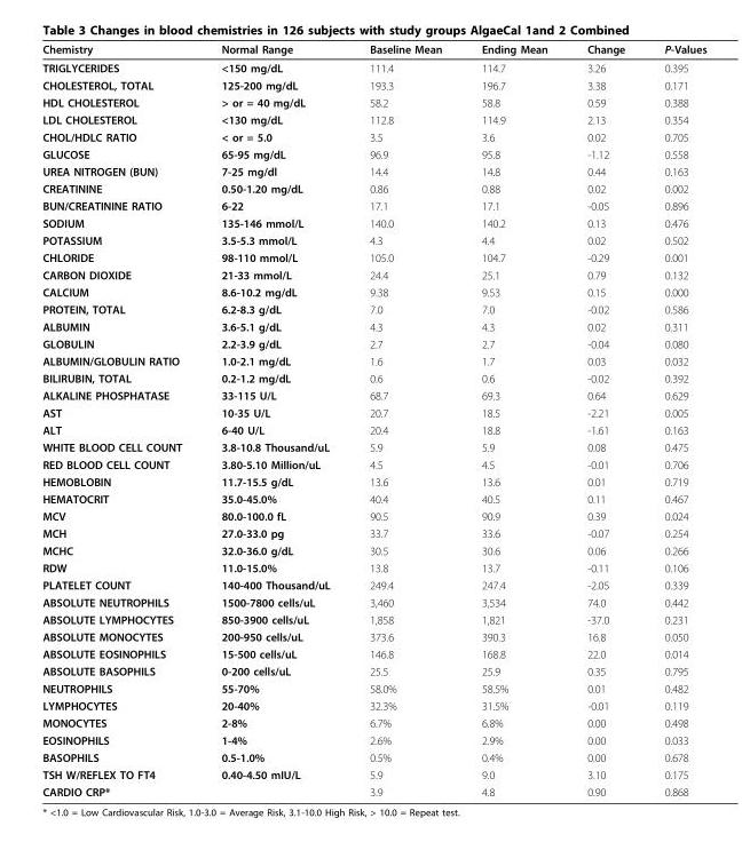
<table><thead><tr><td>Chemistry</td><td>Normal Range</td><td>Baseline Mean</td><td>Ending Mean</td><td>Change</td><td>P-Values</td></tr></thead><tbody><tr><td>TRIGLYCERIDES</td><td>&lt;150 mg/dL</td><td>111.4</td><td>114.7</td><td>3.26</td><td>0.395</td></tr><tr><td>CHOLESTEROL, TOTAL</td><td>125-200 mg/dL</td><td>193.3</td><td>196.7</td><td>3.38</td><td>0.171</td></tr><tr><td>HDL CHOLESTEROL</td><td>&gt; or = 40 mg/dL</td><td>58.2</td><td>58.8</td><td>0.59</td><td>0.388</td></tr><tr><td>LDL CHOLESTEROL</td><td>&lt;130 mg/dL</td><td>112.8</td><td>114.9</td><td>2.13</td><td>0.354</td></tr><tr><td>CHOL/HDLC RATIO</td><td>&lt; or = 5.0</td><td>3.5</td><td>3.6</td><td>0.02</td><td>0.705</td></tr><tr><td>GLUCOSE</td><td>65-95 mg/dL</td><td>96.9</td><td>95.8</td><td>-1.12</td><td>0.558</td></tr><tr><td>UREA NITROGEN (BUN)</td><td>7-25 mg/dl</td><td>14.4</td><td>14.8</td><td>0.44</td><td>0.163</td></tr><tr><td>CREATININE</td><td>0.50-1.20 mg/dL</td><td>0.86</td><td>0.88</td><td>0.02</td><td>0.002</td></tr><tr><td>BUN/CREATININE RATIO</td><td>6-22</td><td>17.1</td><td>17.1</td><td>-0.05</td><td>0.896</td></tr><tr><td>SODIUM</td><td>135-146 mmol/L</td><td>140.0</td><td>140.2</td><td>0.13</td><td>0.476</td></tr><tr><td>POTASSIUM</td><td>3.5-5.3 mmol/L</td><td>4.3</td><td>4.4</td><td>0.02</td><td>0.502</td></tr><tr><td>CHLORIDE</td><td>98-110 mmol/L</td><td>105.0</td><td>104.7</td><td>-0.29</td><td>0.001</td></tr><tr><td>CARBON DIOXIDE</td><td>21-33 mmol/L</td><td>24.4</td><td>25.1</td><td>0.79</td><td>0.132</td></tr><tr><td>CALCIUM</td><td>8.6-10.2 mg/dL</td><td>9.38</td><td>9.53</td><td>0.15</td><td>0.000</td></tr><tr><td>PROTEIN, TOTAL</td><td>6.2-8.3 g/dL</td><td>7.0</td><td>7.0</td><td>-0.02</td><td>0.586</td></tr><tr><td>ALBUMIN</td><td>3.6-5.1 g/dL</td><td>4.3</td><td>4.3</td><td>0.02</td><td>0.311</td></tr><tr><td>GLOBULIN</td><td>2.2-3.9 g/dL</td><td>2.7</td><td>2.7</td><td>-0.04</td><td>0.080</td></tr><tr><td>ALBUMIN/GLOBULIN RATIO</td><td>1.0-2.1 mg/dL</td><td>1.6</td><td>1.7</td><td>0.03</td><td>0.032</td></tr><tr><td>BILIRUBIN, TOTAL</td><td>0.2-1.2 mg/dL</td><td>0.6</td><td>0.6</td><td>-0.02</td><td>0.392</td></tr><tr><td>ALKALINE PHOSPHATASE</td><td>33-115 U/L</td><td>68.7</td><td>69.3</td><td>0.64</td><td>0.629</td></tr><tr><td>AST</td><td>10-35 U/L</td><td>20.7</td><td>18.5</td><td>-2.21</td><td>0.005</td></tr><tr><td>ALT</td><td>6-40 U/L</td><td>20.4</td><td>18.8</td><td>-1.61</td><td>0.163</td></tr><tr><td>WHITE BLOOD CELL COUNT</td><td>3.8-10.8 Thousand/uL</td><td>5.9</td><td>5.9</td><td>0.08</td><td>0.475</td></tr><tr><td>RED BLOOD CELL COUNT</td><td>3.80-5.10 Million/uL</td><td>4.5</td><td>4.5</td><td>-0.01</td><td>0.706</td></tr><tr><td>HEMOBLOBIN</td><td>11.7-15.5 g/dL</td><td>13.6</td><td>13.6</td><td>0.01</td><td>0.719</td></tr><tr><td>HEMATOCRIT</td><td>35.0-45.0%</td><td>40.4</td><td>40.5</td><td>0.11</td><td>0.467</td></tr><tr><td>MCV</td><td>80.0-100.0 fL</td><td>90.5</td><td>90.9</td><td>0.39</td><td>0.024</td></tr><tr><td>MCH</td><td>27.0-33.0 pg</td><td>33.7</td><td>33.6</td><td>-0.07</td><td>0.254</td></tr><tr><td>MCHC</td><td>32.0-36.0 g/dL</td><td>30.5</td><td>30.6</td><td>0.06</td><td>0.266</td></tr><tr><td>RDW</td><td>11.0-15.0%</td><td>13.8</td><td>13.7</td><td>-0.11</td><td>0.106</td></tr><tr><td>PLATELET COUNT</td><td>140-400 Thousand/uL</td><td>249.4</td><td>247.4</td><td>-2.05</td><td>0.339</td></tr><tr><td>ABSOLUTE NEUTROPHILS</td><td>1500-7800 cells/uL</td><td>3,460</td><td>3,534</td><td>74.0</td><td>0.442</td></tr><tr><td>ABSOLUTE LYMPHOCYTES</td><td>850-3900 cells/uL</td><td>1,858</td><td>1,821</td><td>-37.0</td><td>0.231</td></tr><tr><td>ABSOLUTE MONOCYTES</td><td>200-950 cells/uL</td><td>373.6</td><td>390.3</td><td>16.8</td><td>0.050</td></tr><tr><td>ABSOLUTE EOSINOPHILS</td><td>15-500 cells/uL</td><td>146.8</td><td>168.8</td><td>22.0</td><td>0.014</td></tr><tr><td>ABSOLUTE BASOPHILS</td><td>0-200 cells/uL</td><td>25.5</td><td>25.9</td><td>0.35</td><td>0.795</td></tr><tr><td>NEUTROPHILS</td><td>55-70%</td><td>58.0%</td><td>58.5%</td><td>0.01</td><td>0.482</td></tr><tr><td>LYMPHOCYTES</td><td>20-40%</td><td>32.3%</td><td>31.5%</td><td>-0.01</td><td>0.119</td></tr><tr><td>MONOCYTES</td><td>2-8%</td><td>6.7%</td><td>6.8%</td><td>0.00</td><td>0.498</td></tr><tr><td>EOSINOPHILS</td><td>1-4%</td><td>2.6%</td><td>2.9%</td><td>0.00</td><td>0.033</td></tr><tr><td>BASOPHILS</td><td>0.5-1.0%</td><td>0.5%</td><td>0.4%</td><td>0.00</td><td>0.678</td></tr><tr><td>TSH W/REFLEX TO FT4</td><td>0.40-4.50 mIU/L</td><td>5.9</td><td>9.0</td><td>3.10</td><td>0.175</td></tr><tr><td>CARDIO CRP*</td><td></td><td>3.9</td><td>4.8</td><td>0.90</td><td>0.868</td></tr></tbody></table>